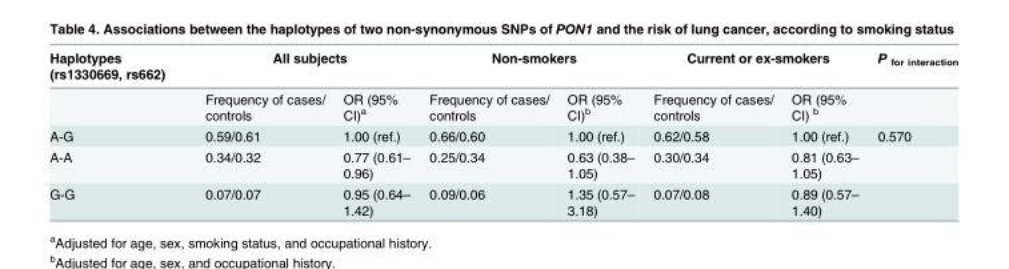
<table><thead><tr><td rowspan="2">Haplotypes (rs1330669, rs662)</td><td colspan="2">All subjects</td><td colspan="2">Non-smokers</td><td colspan="2">Current or ex-smokers</td><td rowspan="2">P <sub>for interaction</sub></td></tr><tr><td>Frequency of cases/ controls</td><td>OR (95% CI)<sup>a</sup></td><td>Frequency of cases/ controls</td><td>OR (95% CI)<sup>b</sup></td><td>Frequency of cases/ controls</td><td>OR (95% CI) <sup>b</sup></td></tr></thead><tbody><tr><td>A-G</td><td>0.59/0.61</td><td>1.00 (ref.)</td><td>0.66/0.60</td><td>1.00 (ref.)</td><td>0.62/0.58</td><td>1.00 (ref.)</td><td>0.570</td></tr><tr><td>A-A</td><td>0.34/0.32</td><td>0.77 (0.61– 0.96)</td><td>0.25/0.34</td><td>0.63 (0.38– 1.05)</td><td>0.30/0.34</td><td>0.81 (0.63– 1.05)</td><td></td></tr><tr><td>G-G</td><td>0.07/0.07</td><td>0.95 (0.64– 1.42)</td><td>0.09/0.06</td><td>1.35 (0.57– 3.18)</td><td>0.07/0.08</td><td>0.89 (0.57– 1.40)</td><td></td></tr></tbody></table>